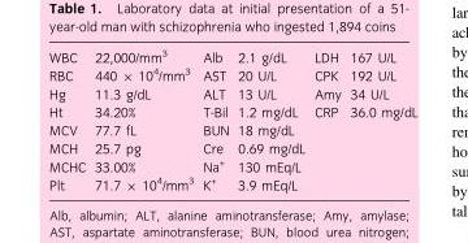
<table><tbody><tr><td>WBC</td><td>22,000/mm<sup>3</sup></td><td>Alb</td><td>2.1 g/dL</td><td>LDH</td><td>167 U/L</td></tr><tr><td>RBC</td><td>440 × 10<sup>4</sup>/mm<sup>3</sup></td><td>AST</td><td>20 U/L</td><td>CPK</td><td>192 U/L</td></tr><tr><td>Hg</td><td>11.3 g/dL</td><td>ALT</td><td>13 U/L</td><td>Amy</td><td>34 U/L</td></tr><tr><td>Ht</td><td>34.20%</td><td>T-Bil</td><td>1.2 mg/dL</td><td>CRP</td><td>36.0 mg/dL</td></tr><tr><td>MCV</td><td>77.7 fL</td><td>BUN</td><td>18 mg/dL</td><td></td><td></td></tr><tr><td>MCH</td><td>25.7 pg</td><td>Cre</td><td>0.69 mg/dL</td><td></td><td></td></tr><tr><td>MCHC</td><td>33.00%</td><td>Na<sup>+</sup></td><td>130 mEq/L</td><td></td><td></td></tr><tr><td>Plt</td><td>71.7 × 10<sup>4</sup>/mm<sup>3</sup></td><td>K<sup>+</sup></td><td>3.9 mEq/L</td><td></td><td></td></tr></tbody></table>